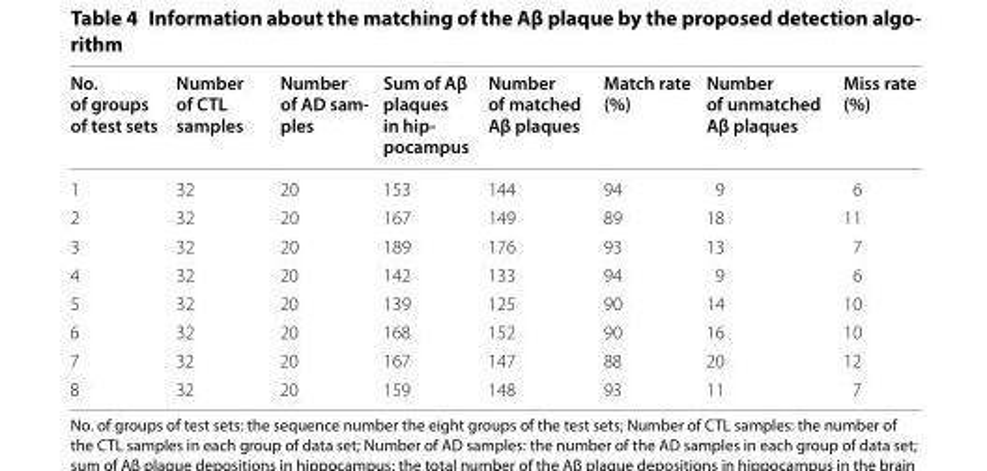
<table><thead><tr><td>No. of groups of test sets</td><td>Number of CTL samples</td><td>Number of AD sam- ples</td><td>Sum of Aβ plaques in hip- pocampus</td><td>Number of matched Aβ plaques</td><td>Match rate (%)</td><td>Number of unmatched Aβ plaques</td><td>Miss rate (%)</td></tr></thead><tbody><tr><td>1</td><td>32</td><td>20</td><td>153</td><td>144</td><td>94</td><td>9</td><td>6</td></tr><tr><td>2</td><td>32</td><td>20</td><td>167</td><td>149</td><td>89</td><td>18</td><td>11</td></tr><tr><td>3</td><td>32</td><td>20</td><td>189</td><td>176</td><td>93</td><td>13</td><td>7</td></tr><tr><td>4</td><td>32</td><td>20</td><td>142</td><td>133</td><td>94</td><td>9</td><td>6</td></tr><tr><td>5</td><td>32</td><td>20</td><td>139</td><td>125</td><td>90</td><td>14</td><td>10</td></tr><tr><td>6</td><td>32</td><td>20</td><td>168</td><td>152</td><td>90</td><td>16</td><td>10</td></tr><tr><td>7</td><td>32</td><td>20</td><td>167</td><td>147</td><td>88</td><td>20</td><td>12</td></tr><tr><td>8</td><td>32</td><td>20</td><td>159</td><td>148</td><td>93</td><td>11</td><td>7</td></tr></tbody></table>